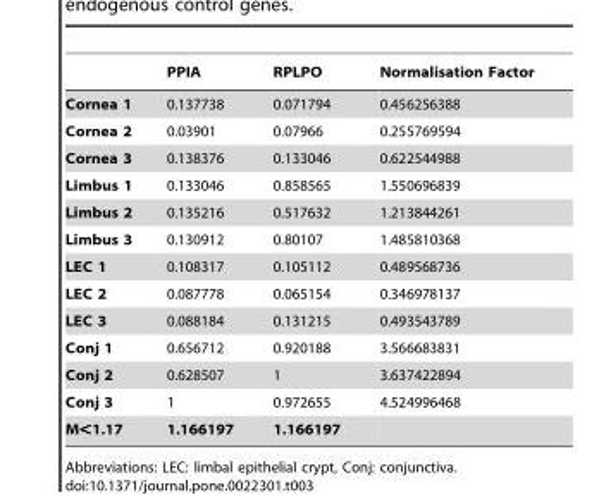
<table><thead><tr><td></td><td>PPIA</td><td>RPLPO</td><td>Normalisation Factor</td></tr></thead><tbody><tr><td>Cornea 1</td><td>0.137738</td><td>0.071794</td><td>0.456256388</td></tr><tr><td>Cornea 2</td><td>0.03901</td><td>0.07966</td><td>0.255769594</td></tr><tr><td>Cornea 3</td><td>0.138376</td><td>0.133046</td><td>0.622544988</td></tr><tr><td>Limbus 1</td><td>0.133046</td><td>0.858565</td><td>1.550696839</td></tr><tr><td>Limbus 2</td><td>0.135216</td><td>0.517632</td><td>1.213844261</td></tr><tr><td>Limbus 3</td><td>0.130912</td><td>0.80107</td><td>1.485810368</td></tr><tr><td>LEC 1</td><td>0.108317</td><td>0.105112</td><td>0.489568736</td></tr><tr><td>LEC 2</td><td>0.087778</td><td>0.065154</td><td>0.346978137</td></tr><tr><td>LEC 3</td><td>0.088184</td><td>0.131215</td><td>0.493543789</td></tr><tr><td>Conj 1</td><td>0.656712</td><td>0.920188</td><td>3.566683831</td></tr><tr><td>Conj 2</td><td>0.628507</td><td>1</td><td>3.637422894</td></tr><tr><td>Conj 3</td><td>1</td><td>0.972655</td><td>4.524996468</td></tr><tr><td>M&lt;1.17</td><td>1.166197</td><td>1.166197</td><td></td></tr></tbody></table>